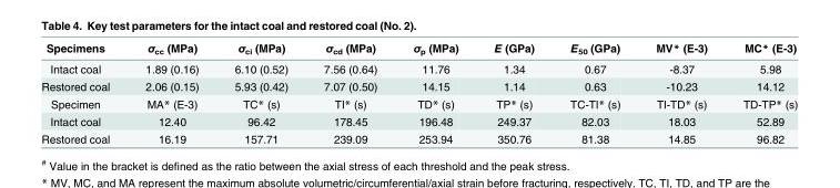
<table><thead><tr><td>Specimens</td><td>σ<sub>cc</sub> (MPa)</td><td>σ<sub>ci</sub> (MPa)</td><td>σ<sub>cd</sub> (MPa)</td><td>σ<sub>p</sub> (MPa)</td><td>E (GPa)</td><td>E<sub>50</sub> (GPa)</td><td>MV* (E-3)</td><td>MC* (E-3)</td></tr></thead><tbody><tr><td>Intact coal</td><td>1.89 (0.16)</td><td>6.10 (0.52)</td><td>7.56 (0.64)</td><td>11.76</td><td>1.34</td><td>0.67</td><td>-8.37</td><td>5.98</td></tr><tr><td>Restored coal</td><td>2.06 (0.15)</td><td>5.93 (0.42)</td><td>7.07 (0.50)</td><td>14.15</td><td>1.14</td><td>0.63</td><td>-10.23</td><td>14.12</td></tr><tr><td>Specimen</td><td>MA* (E-3)</td><td>TC* (s)</td><td>TI* (s)</td><td>TD* (s)</td><td>TP* (s)</td><td>TC-TI* (s)</td><td>TI-TD* (s)</td><td>TD-TP* (s)</td></tr><tr><td>Intact coal</td><td>12.40</td><td>96.42</td><td>178.45</td><td>196.48</td><td>249.37</td><td>82.03</td><td>18.03</td><td>52.89</td></tr><tr><td>Restored coal</td><td>16.19</td><td>157.71</td><td>239.09</td><td>253.94</td><td>350.76</td><td>81.38</td><td>14.85</td><td>96.82</td></tr></tbody></table>